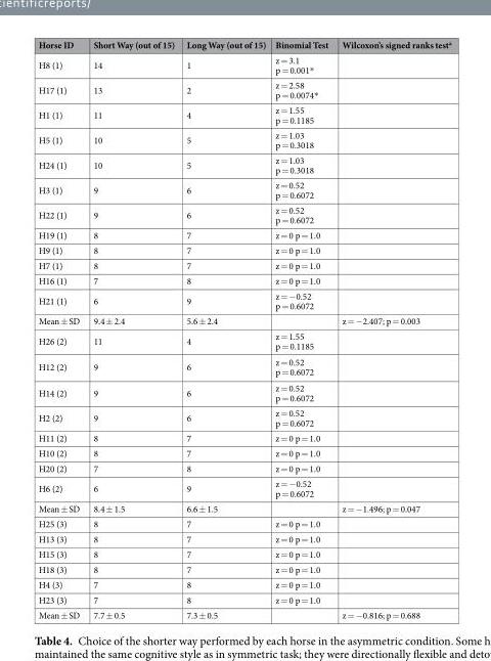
<table><thead><tr><td>Horse ID</td><td>Short Way (out of 15)</td><td>Long Way (out of 15)</td><td>Binomial Test</td><td>Wilcoxon’s signed ranks test<sup>a</sup></td></tr></thead><tbody><tr><td>H8 (1)</td><td>14</td><td>1</td><td>z = 3.1 p = 0.001*</td><td></td></tr><tr><td>H17 (1)</td><td>13</td><td>2</td><td>z = 2.58 p = 0.0074*</td><td></td></tr><tr><td>H1 (1)</td><td>11</td><td>4</td><td>z = 1.55 p = 0.1185</td><td></td></tr><tr><td>H5 (1)</td><td>10</td><td>5</td><td>z = 1.03 p = 0.3018</td><td></td></tr><tr><td>H24 (1)</td><td>10</td><td>5</td><td>z = 1.03 p = 0.3018</td><td></td></tr><tr><td>H3 (1)</td><td>9</td><td>6</td><td>z = 0.52 p = 0.6072</td><td></td></tr><tr><td>H22 (1)</td><td>9</td><td>6</td><td>z = 0.52 p = 0.6072</td><td></td></tr><tr><td>H19 (1)</td><td>8</td><td>7</td><td>z = 0 p = 1.0</td><td></td></tr><tr><td>H9 (1)</td><td>8</td><td>7</td><td>z = 0 p = 1.0</td><td></td></tr><tr><td>H7 (1)</td><td>8</td><td>7</td><td>z = 0 p = 1.0</td><td></td></tr><tr><td>H16 (1)</td><td>7</td><td>8</td><td>z = 0 p = 1.0</td><td></td></tr><tr><td>H21 (1)</td><td>6</td><td>9</td><td>z = −0.52 p = 0.6072</td><td></td></tr><tr><td>Mean ± SD</td><td>9.4 ± 2.4</td><td>5.6 ± 2.4</td><td></td><td>z = −2.407; p = 0.003</td></tr><tr><td>H26 (2)</td><td>11</td><td>4</td><td>z = 1.55 p = 0.1185</td><td></td></tr><tr><td>H12 (2)</td><td>9</td><td>6</td><td>z = 0.52 p = 0.6072</td><td></td></tr><tr><td>H14 (2)</td><td>9</td><td>6</td><td>z = 0.52 p = 0.6072</td><td></td></tr><tr><td>H2 (2)</td><td>9</td><td>6</td><td>z = 0.52 p = 0.6072</td><td></td></tr><tr><td>H11 (2)</td><td>8</td><td>7</td><td>z = 0 p = 1.0</td><td></td></tr><tr><td>H10 (2)</td><td>8</td><td>7</td><td>z = 0 p = 1.0</td><td></td></tr><tr><td>H20 (2)</td><td>7</td><td>8</td><td>z = 0 p = 1.0</td><td></td></tr><tr><td>H6 (2)</td><td>6</td><td>9</td><td>z = −0.52 p = 0.6072</td><td></td></tr><tr><td>Mean ± SD</td><td>8.4 ± 1.5</td><td>6.6 ± 1.5</td><td></td><td>z = −1.496; p = 0.047</td></tr><tr><td>H25 (3)</td><td>8</td><td>7</td><td>z = 0 p = 1.0</td><td></td></tr><tr><td>H13 (3)</td><td>8</td><td>7</td><td>z = 0 p = 1.0</td><td></td></tr><tr><td>H15 (3)</td><td>8</td><td>7</td><td>z = 0 p = 1.0</td><td></td></tr><tr><td>H18 (3)</td><td>8</td><td>7</td><td>z = 0 p = 1.0</td><td></td></tr><tr><td>H4 (3)</td><td>7</td><td>8</td><td>z = 0 p = 1.0</td><td></td></tr><tr><td>H23 (3)</td><td>7</td><td>8</td><td>z = 0 p = 1.0</td><td></td></tr><tr><td>Mean ± SD</td><td>7.7 ± 0.5</td><td>7.3 ± 0.5</td><td></td><td>z = −0.816; p = 0.688</td></tr></tbody></table>